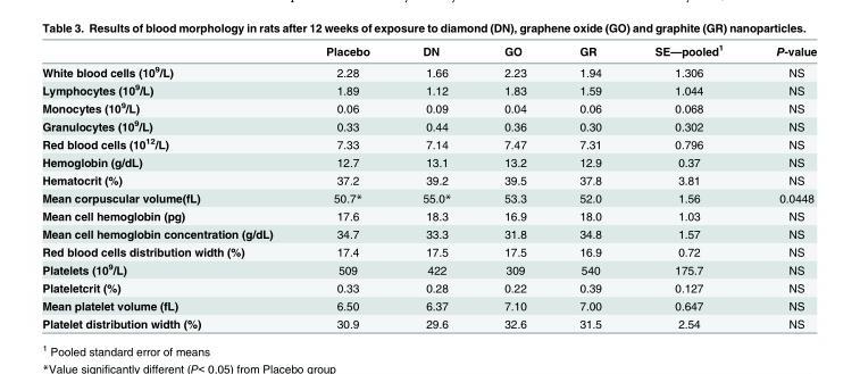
<table><thead><tr><td></td><td>Placebo</td><td>DN</td><td>GO</td><td>GR</td><td>SE—pooled<sup>1</sup></td><td>P-value</td></tr></thead><tbody><tr><td>White blood cells (10<sup>9</sup>/L)</td><td>2.28</td><td>1.66</td><td>2.23</td><td>1.94</td><td>1.306</td><td>NS</td></tr><tr><td>Lymphocytes (10<sup>9</sup>/L)</td><td>1.89</td><td>1.12</td><td>1.83</td><td>1.59</td><td>1.044</td><td>NS</td></tr><tr><td>Monocytes (10<sup>9</sup>/L)</td><td>0.06</td><td>0.09</td><td>0.04</td><td>0.06</td><td>0.068</td><td>NS</td></tr><tr><td>Granulocytes (10<sup>9</sup>/L)</td><td>0.33</td><td>0.44</td><td>0.36</td><td>0.30</td><td>0.302</td><td>NS</td></tr><tr><td>Red blood cells (10<sup>12</sup>/L)</td><td>7.33</td><td>7.14</td><td>7.47</td><td>7.31</td><td>0.796</td><td>NS</td></tr><tr><td>Hemoglobin (g/dL)</td><td>12.7</td><td>13.1</td><td>13.2</td><td>12.9</td><td>0.37</td><td>NS</td></tr><tr><td>Hematocrit (%)</td><td>37.2</td><td>39.2</td><td>39.5</td><td>37.8</td><td>3.81</td><td>NS</td></tr><tr><td>Mean corpuscular volume(fL)</td><td>50.7*</td><td>55.0*</td><td>53.3</td><td>52.0</td><td>1.56</td><td>0.0448</td></tr><tr><td>Mean cell hemoglobin (pg)</td><td>17.6</td><td>18.3</td><td>16.9</td><td>18.0</td><td>1.03</td><td>NS</td></tr><tr><td>Mean cell hemoglobin concentration (g/dL)</td><td>34.7</td><td>33.3</td><td>31.8</td><td>34.8</td><td>1.57</td><td>NS</td></tr><tr><td>Red blood cells distribution width (%)</td><td>17.4</td><td>17.5</td><td>17.5</td><td>16.9</td><td>0.72</td><td>NS</td></tr><tr><td>Platelets (10<sup>9</sup>/L)</td><td>509</td><td>422</td><td>309</td><td>540</td><td>175.7</td><td>NS</td></tr><tr><td>Plateletcrit (%)</td><td>0.33</td><td>0.28</td><td>0.22</td><td>0.39</td><td>0.127</td><td>NS</td></tr><tr><td>Mean platelet volume (fL)</td><td>6.50</td><td>6.37</td><td>7.10</td><td>7.00</td><td>0.647</td><td>NS</td></tr><tr><td>Platelet distribution width (%)</td><td>30.9</td><td>29.6</td><td>32.6</td><td>31.5</td><td>2.54</td><td>NS</td></tr></tbody></table>